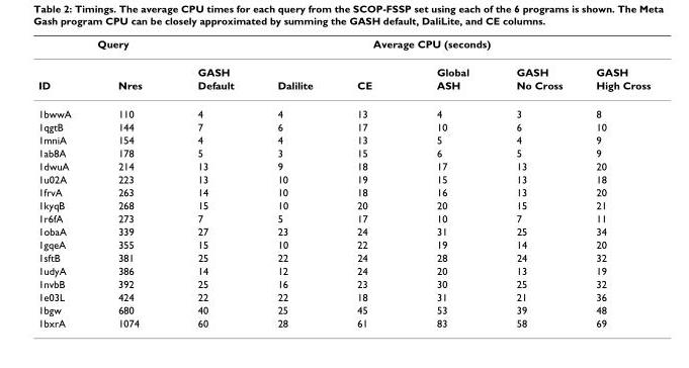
<table><thead><tr><td colspan="2">Query</td><td colspan="6">Average CPU (seconds)</td></tr><tr><td></td><td></td><td>GASH</td><td></td><td></td><td>Global</td><td>GASH</td><td>GASH</td></tr></thead><tbody><tr><td>ID</td><td>Nres</td><td>Default</td><td>Dalilite</td><td>CE</td><td>ASH</td><td>No Cross</td><td>High Cross</td></tr><tr><td>1bwwA</td><td>110</td><td>4</td><td>4</td><td>13</td><td>4</td><td>3</td><td>8</td></tr><tr><td>1qgtB</td><td>144</td><td>7</td><td>6</td><td>17</td><td>10</td><td>6</td><td>10</td></tr><tr><td>1mniA</td><td>154</td><td>4</td><td>4</td><td>13</td><td>5</td><td>4</td><td>9</td></tr><tr><td>1ab8A</td><td>178</td><td>5</td><td>3</td><td>15</td><td>6</td><td>5</td><td>9</td></tr><tr><td>1dwuA</td><td>214</td><td>13</td><td>9</td><td>18</td><td>17</td><td>13</td><td>20</td></tr><tr><td>1u02A</td><td>223</td><td>13</td><td>10</td><td>19</td><td>15</td><td>13</td><td>18</td></tr><tr><td>1frvA</td><td>263</td><td>14</td><td>10</td><td>18</td><td>16</td><td>13</td><td>20</td></tr><tr><td>1kyqB</td><td>268</td><td>15</td><td>10</td><td>20</td><td>20</td><td>15</td><td>21</td></tr><tr><td>1r6fA</td><td>273</td><td>7</td><td>5</td><td>17</td><td>10</td><td>7</td><td>11</td></tr><tr><td>1obaA</td><td>339</td><td>27</td><td>23</td><td>24</td><td>31</td><td>25</td><td>34</td></tr><tr><td>1gqeA</td><td>355</td><td>15</td><td>10</td><td>22</td><td>19</td><td>14</td><td>20</td></tr><tr><td>1sftB</td><td>381</td><td>25</td><td>22</td><td>24</td><td>28</td><td>24</td><td>32</td></tr><tr><td>1udyA</td><td>386</td><td>14</td><td>12</td><td>24</td><td>20</td><td>13</td><td>19</td></tr><tr><td>1nvbB</td><td>392</td><td>25</td><td>16</td><td>23</td><td>30</td><td>25</td><td>32</td></tr><tr><td>1e03L</td><td>424</td><td>22</td><td>22</td><td>18</td><td>31</td><td>21</td><td>36</td></tr><tr><td>1bgw</td><td>680</td><td>40</td><td>25</td><td>45</td><td>53</td><td>39</td><td>48</td></tr><tr><td>1bxrA</td><td>1074</td><td>60</td><td>28</td><td>61</td><td>83</td><td>58</td><td>69</td></tr></tbody></table>